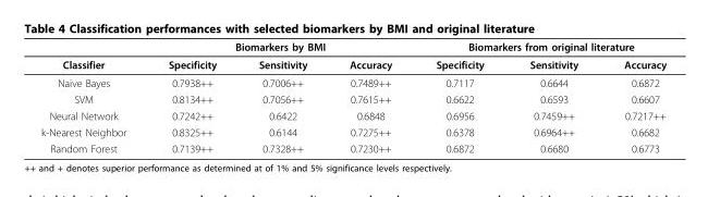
<table><thead><tr><td rowspan="2">Classifier</td><td colspan="3">Biomarkers by BMI</td><td colspan="3">Biomarkers from original literature</td></tr><tr><td>Specificity</td><td>Sensitivity</td><td>Accuracy</td><td>Specificity</td><td>Sensitivity</td><td>Accuracy</td></tr></thead><tbody><tr><td>Naïve Bayes</td><td>0.7938++</td><td>0.7006++</td><td>0.7489++</td><td>0.7117</td><td>0.6644</td><td>0.6872</td></tr><tr><td>SVM</td><td>0.8134++</td><td>0.7056++</td><td>0.7615++</td><td>0.6622</td><td>0.6593</td><td>0.6607</td></tr><tr><td>Neural Network</td><td>0.7242++</td><td>0.6422</td><td>0.6848</td><td>0.6956</td><td>0.7459++</td><td>0.7217++</td></tr><tr><td>k-Nearest Neighbor</td><td>0.8325++</td><td>0.6144</td><td>0.7275++</td><td>0.6378</td><td>0.6964++</td><td>0.6682</td></tr><tr><td>Random Forest</td><td>0.7139++</td><td>0.7328++</td><td>0.7230++</td><td>0.6872</td><td>0.6680</td><td>0.6773</td></tr></tbody></table>